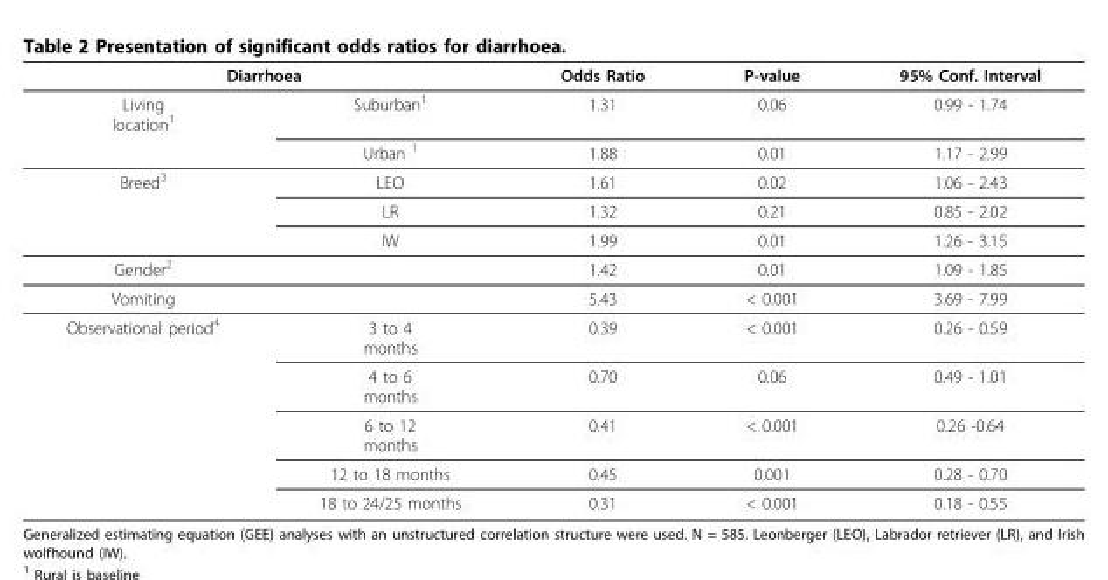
<table><thead><tr><td colspan="2">Diarrhoea</td><td rowspan="2">Odds Ratio 1.31</td><td rowspan="2">P-value 0.06</td><td rowspan="2">95% Conf. Interval 0.99 - 1.74</td></tr><tr><td>Living location1</td><td>Suburban1</td></tr></thead><tbody><tr><td></td><td>Urban 1</td><td>1.88</td><td>0.01</td><td>1.17 - 2.99</td></tr><tr><td rowspan="3">Breed<sup>3</sup></td><td>LEO</td><td>1.61</td><td>0.02</td><td>1.06 - 2.43</td></tr><tr><td>LR</td><td>1.32</td><td>0.21</td><td>0.85 - 2.02</td></tr><tr><td>IW</td><td>1.99</td><td>0.01</td><td>1.26 - 3.15</td></tr><tr><td>Gender<sup>2</sup></td><td></td><td>1.42</td><td>0.01</td><td>1.09 - 1.85</td></tr><tr><td>Vomiting</td><td></td><td>5.43</td><td>&lt; 0.001</td><td>3.69 - 7.99</td></tr><tr><td rowspan="5">Observational period<sup>4</sup></td><td>3 to 4 months</td><td>0.39</td><td>&lt; 0.001</td><td>0.26 - 0.59</td></tr><tr><td>4 to 6 months</td><td>0.70</td><td>0.06</td><td>0.49 - 1.01</td></tr><tr><td>6 to 12 months</td><td>0.41</td><td>&lt; 0.001</td><td>0.26 -0.64</td></tr><tr><td>12 to 18 months</td><td>0.45</td><td>0.001</td><td>0.28 - 0.70</td></tr><tr><td>18 to 24/25 months</td><td>0.31</td><td>&lt; 0.001</td><td>0.18 - 0.55</td></tr></tbody></table>